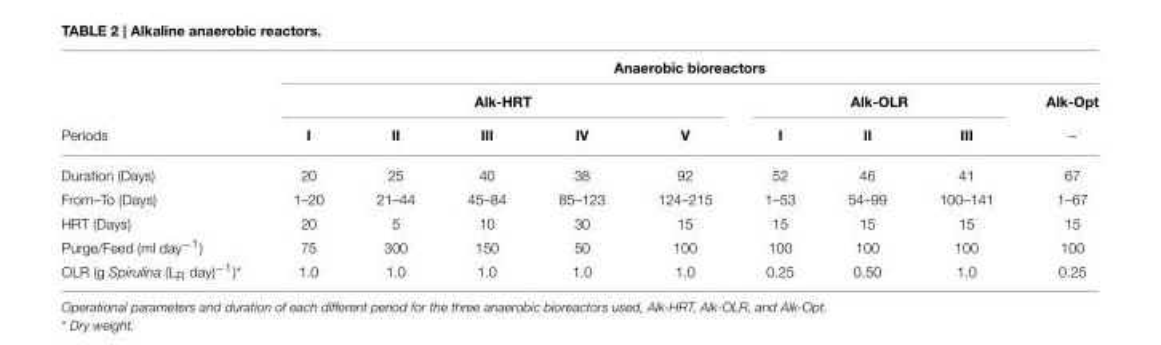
<table><thead><tr><td rowspan="3">Periods</td><td colspan="9">Anaerobic bioreactors</td></tr><tr><td colspan="5">Alk-HRT</td><td colspan="3">Alk-OLR</td><td rowspan="2">Alk-Opt –</td></tr><tr><td>I</td><td>II</td><td>III</td><td>IV</td><td>V</td><td>I</td><td>II</td><td>III</td></tr></thead><tbody><tr><td>Duration (Days)</td><td>20</td><td>25</td><td>40</td><td>38</td><td>92</td><td>52</td><td>46</td><td>41</td><td>67</td></tr><tr><td>From–To (Days)</td><td>1–20</td><td>21–44</td><td>45–84</td><td>85–123</td><td>124–215</td><td>1–53</td><td>54–99</td><td>100–141</td><td>1–67</td></tr><tr><td>HRT (Days)</td><td>20</td><td>5</td><td>10</td><td>30</td><td>15</td><td>15</td><td>15</td><td>15</td><td>15</td></tr><tr><td>Purge/Feed (ml day<sup>−1</sup>)</td><td>75</td><td>300</td><td>150</td><td>50</td><td>100</td><td>100</td><td>100</td><td>100</td><td>100</td></tr><tr><td>OLR (g Spirulina (L<sub>R</sub> day)<sup>−1</sup>)*</td><td>1.0</td><td>1.0</td><td>1.0</td><td>1.0</td><td>1.0</td><td>0.25</td><td>0.50</td><td>1.0</td><td>0.25</td></tr></tbody></table>